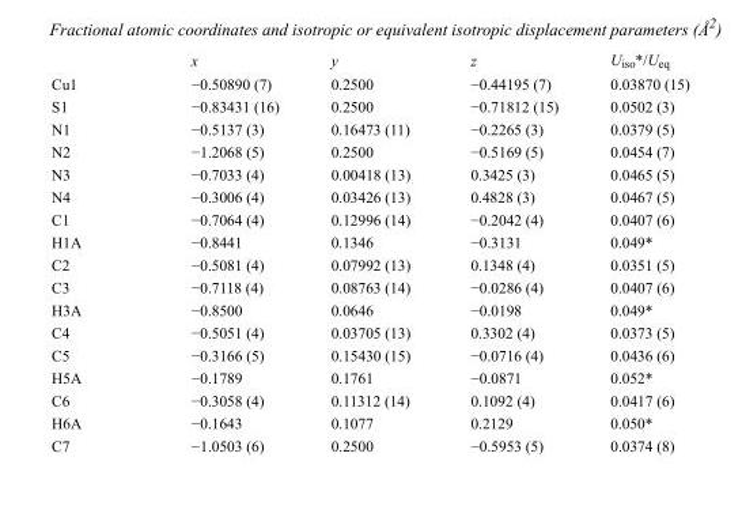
<table><thead><tr><td></td><td>x</td><td>y</td><td>z</td><td>U<sub>iso</sub>*/U<sub>eq</sub></td></tr></thead><tbody><tr><td>Cu1</td><td>−0.50890 (7)</td><td>0.2500</td><td>−0.44195 (7)</td><td>0.03870 (15)</td></tr><tr><td>S1</td><td>−0.83431 (16)</td><td>0.2500</td><td>−0.71812 (15)</td><td>0.0502 (3)</td></tr><tr><td>N1</td><td>−0.5137 (3)</td><td>0.16473 (11)</td><td>−0.2265 (3)</td><td>0.0379 (5)</td></tr><tr><td>N2</td><td>−1.2068 (5)</td><td>0.2500</td><td>−0.5169 (5)</td><td>0.0454 (7)</td></tr><tr><td>N3</td><td>−0.7033 (4)</td><td>0.00418 (13)</td><td>0.3425 (3)</td><td>0.0465 (5)</td></tr><tr><td>N4</td><td>−0.3006 (4)</td><td>0.03426 (13)</td><td>0.4828 (3)</td><td>0.0467 (5)</td></tr><tr><td>C1</td><td>−0.7064 (4)</td><td>0.12996 (14)</td><td>−0.2042 (4)</td><td>0.0407 (6)</td></tr><tr><td>H1A</td><td>−0.8441</td><td>0.1346</td><td>−0.3131</td><td>0.049*</td></tr><tr><td>C2</td><td>−0.5081 (4)</td><td>0.07992 (13)</td><td>0.1348 (4)</td><td>0.0351 (5)</td></tr><tr><td>C3</td><td>−0.7118 (4)</td><td>0.08763 (14)</td><td>−0.0286 (4)</td><td>0.0407 (6)</td></tr><tr><td>H3A</td><td>−0.8500</td><td>0.0646</td><td>−0.0198</td><td>0.049*</td></tr><tr><td>C4</td><td>−0.5051 (4)</td><td>0.03705 (13)</td><td>0.3302 (4)</td><td>0.0373 (5)</td></tr><tr><td>C5</td><td>−0.3166 (5)</td><td>0.15430 (15)</td><td>−0.0716 (4)</td><td>0.0436 (6)</td></tr><tr><td>H5A</td><td>−0.1789</td><td>0.1761</td><td>−0.0871</td><td>0.052*</td></tr><tr><td>C6</td><td>−0.3058 (4)</td><td>0.11312 (14)</td><td>0.1092 (4)</td><td>0.0417 (6)</td></tr><tr><td>H6A</td><td>−0.1643</td><td>0.1077</td><td>0.2129</td><td>0.050*</td></tr><tr><td>C7</td><td>−1.0503 (6)</td><td>0.2500</td><td>−0.5953 (5)</td><td>0.0374 (8)</td></tr></tbody></table>